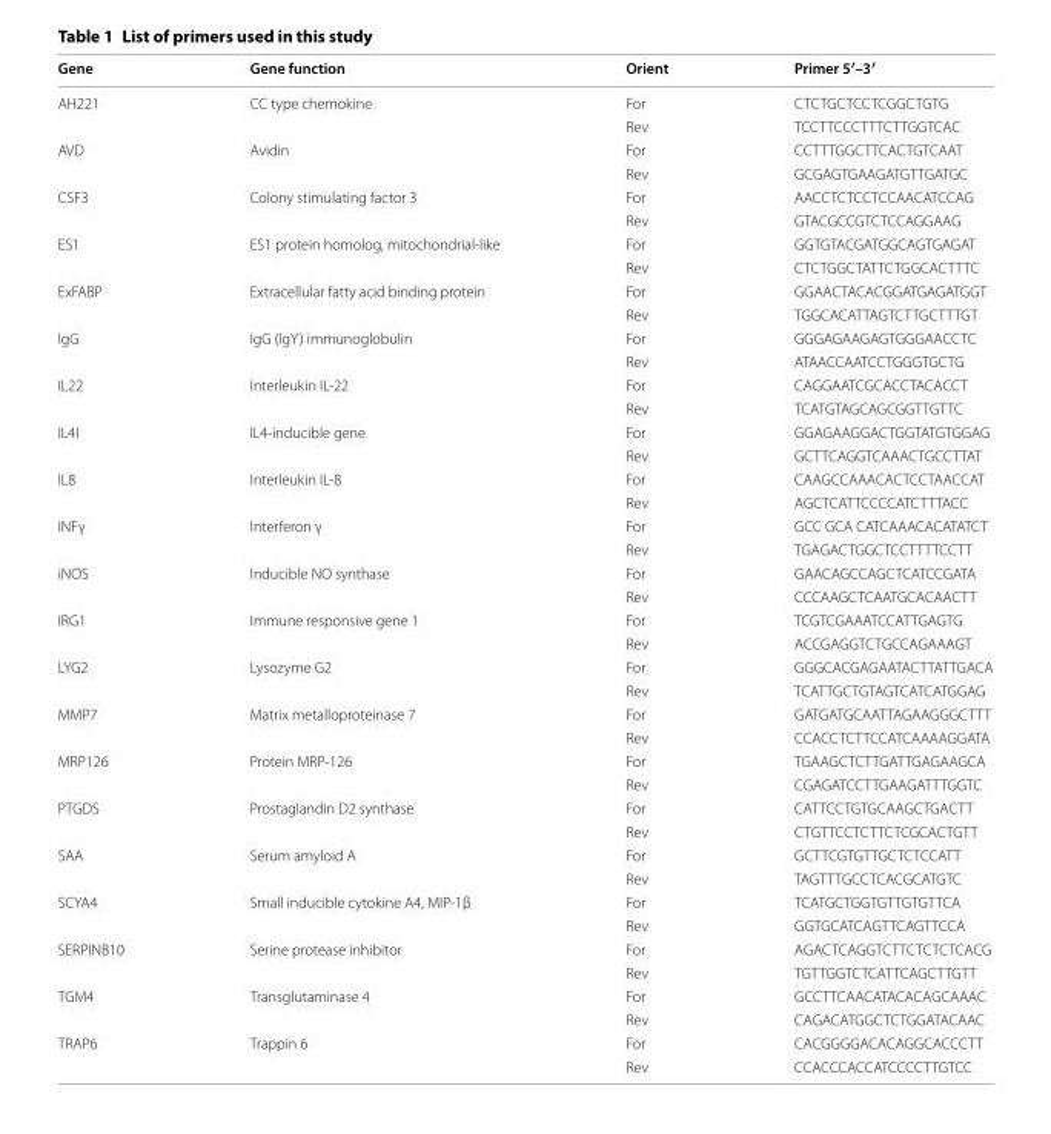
<table><thead><tr><td>Gene</td><td>Gene function</td><td>Orient</td><td>Primer 5′–3′</td></tr></thead><tbody><tr><td rowspan="2">AH221</td><td>CC type chemokine</td><td>For</td><td>CTCTGCTCCTCGGCTGTG</td></tr><tr><td></td><td>Rev</td><td>TCCTTCCCTTTCTTGGTCAC</td></tr><tr><td rowspan="2">AVD</td><td>Avidin</td><td>For</td><td>CCTTTGGCTTCACTGTCAAT</td></tr><tr><td></td><td>Rev</td><td>GCGAGTGAAGATGTTGATGC</td></tr><tr><td rowspan="2">CSF3</td><td>Colony stimulating factor 3</td><td>For</td><td>AACCTCTCCTCCAACATCCAG</td></tr><tr><td></td><td>Rev</td><td>GTACGCCGTCTCCAGGAAG</td></tr><tr><td rowspan="2">ES1</td><td>ES1 protein homolog, mitochondrial‑like</td><td>For</td><td>GGTGTACGATGGCAGTGAGAT</td></tr><tr><td></td><td>Rev</td><td>CTCTGGCTATTCTGGCACTTTC</td></tr><tr><td rowspan="2">ExFABP</td><td>Extracellular fatty acid binding protein</td><td>For</td><td>GGAACTACACGGATGAGATGGT</td></tr><tr><td></td><td>Rev</td><td>TGGCACATTAGTCTTGCTTTGT</td></tr><tr><td rowspan="2">IgG</td><td>IgG (IgY) immunoglobulin</td><td>For</td><td>GGGAGAAGAGTGGGAACCTC</td></tr><tr><td></td><td>Rev</td><td>ATAACCAATCCTGGGTGCTG</td></tr><tr><td rowspan="2">IL22</td><td>Interleukin IL‑22</td><td>For</td><td>CAGGAATCGCACCTACACCT</td></tr><tr><td></td><td>Rev</td><td>TCATGTAGCAGCGGTTGTTC</td></tr><tr><td rowspan="2">IL4I</td><td>IL4‑inducible gene</td><td>For</td><td>GGAGAAGGACTGGTATGTGGAG</td></tr><tr><td></td><td>Rev</td><td>GCTTCAGGTCAAACTGCCTTAT</td></tr><tr><td rowspan="2">IL8</td><td>Interleukin IL‑8</td><td>For</td><td>CAAGCCAAACACTCCTAACCAT</td></tr><tr><td></td><td>Rev</td><td>AGCTCATTCCCCATCTTTACC</td></tr><tr><td rowspan="2">INFγ</td><td>Interferon γ</td><td>For</td><td>GCC GCA CATCAAACACATATCT</td></tr><tr><td></td><td>Rev</td><td>TGAGACTGGCTCCTTTTCCTT</td></tr><tr><td rowspan="2">iNOS</td><td>Inducible NO synthase</td><td>For</td><td>GAACAGCCAGCTCATCCGATA</td></tr><tr><td></td><td>Rev</td><td>CCCAAGCTCAATGCACAACTT</td></tr><tr><td rowspan="2">IRG1</td><td>Immune responsive gene 1</td><td>For</td><td>TCGTCGAAATCCATTGAGTG</td></tr><tr><td></td><td>Rev</td><td>ACCGAGGTCTGCCAGAAAGT</td></tr><tr><td rowspan="2">LYG2</td><td>Lysozyme G2</td><td>For</td><td>GGGCACGAGAATACTTATTGACA</td></tr><tr><td></td><td>Rev</td><td>TCATTGCTGTAGTCATCATGGAG</td></tr><tr><td rowspan="2">MMP7</td><td>Matrix metalloproteinase 7</td><td>For</td><td>GATGATGCAATTAGAAGGGCTTT</td></tr><tr><td></td><td>Rev</td><td>CCACCTCTTCCATCAAAAGGATA</td></tr><tr><td rowspan="2">MRP126</td><td>Protein MRP‑126</td><td>For</td><td>TGAAGCTCTTGATTGAGAAGCA</td></tr><tr><td></td><td>Rev</td><td>CGAGATCCTTGAAGATTTGGTC</td></tr><tr><td rowspan="2">PTGDS</td><td>Prostaglandin D2 synthase</td><td>For</td><td>CATTCCTGTGCAAGCTGACTT</td></tr><tr><td></td><td>Rev</td><td>CTGTTCCTCTTCTCGCACTGTT</td></tr><tr><td rowspan="2">SAA</td><td>Serum amyloid A</td><td>For</td><td>GCTTCGTGTTGCTCTCCATT</td></tr><tr><td></td><td>Rev</td><td>TAGTTTGCCTCACGCATGTC</td></tr><tr><td rowspan="2">SCYA4</td><td>Small inducible cytokine A4, MIP‑1β</td><td>For</td><td>TCATGCTGGTGTTGTGTTCA</td></tr><tr><td></td><td>Rev</td><td>GGTGCATCAGTTCAGTTCCA</td></tr><tr><td rowspan="2">SERPINB10</td><td>Serine protease inhibitor</td><td>For</td><td>AGACTCAGGTCTTCTCTCTCACG</td></tr><tr><td></td><td>Rev</td><td>TGTTGGTCTCATTCAGCTTGTT</td></tr><tr><td rowspan="2">TGM4</td><td>Transglutaminase 4</td><td>For</td><td>GCCTTCAACATACACAGCAAAC</td></tr><tr><td></td><td>Rev</td><td>CAGACATGGCTCTGGATACAAC</td></tr><tr><td rowspan="2">TRAP6</td><td>Trappin 6</td><td>For</td><td>CACGGGGACACAGGCACCCTT</td></tr><tr><td></td><td>Rev</td><td>CCACCCACCATCCCCTTGTCC</td></tr></tbody></table>